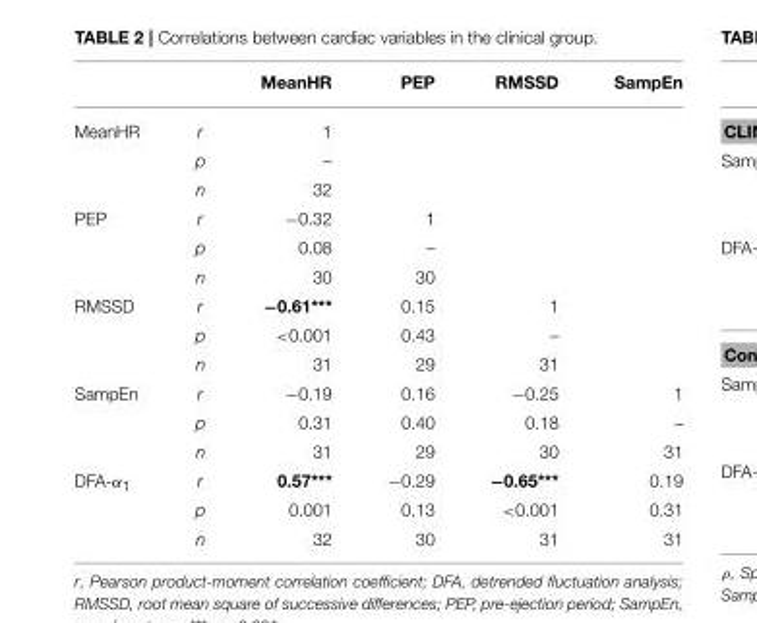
<table><thead><tr><td></td><td></td><td>MeanHR</td><td>PEP</td><td>RMSSD</td><td>SampEn</td></tr></thead><tbody><tr><td rowspan="3">MeanHR</td><td>r</td><td>1</td><td></td><td></td><td></td></tr><tr><td>p</td><td>–</td><td></td><td></td><td></td></tr><tr><td>n</td><td>32</td><td></td><td></td><td></td></tr><tr><td rowspan="3">PEP</td><td>r</td><td>−0.32</td><td>1</td><td></td><td></td></tr><tr><td>p</td><td>0.08</td><td>–</td><td></td><td></td></tr><tr><td>n</td><td>30</td><td>30</td><td></td><td></td></tr><tr><td rowspan="3">RMSSD</td><td>r</td><td>−0.61***</td><td>0.15</td><td>1</td><td></td></tr><tr><td>p</td><td>&lt;0.001</td><td>0.43</td><td>–</td><td></td></tr><tr><td>n</td><td>31</td><td>29</td><td>31</td><td></td></tr><tr><td rowspan="3">SampEn</td><td>r</td><td>−0.19</td><td>0.16</td><td>−0.25</td><td>1</td></tr><tr><td>p</td><td>0.31</td><td>0.40</td><td>0.18</td><td>–</td></tr><tr><td>n</td><td>31</td><td>29</td><td>30</td><td>31</td></tr><tr><td rowspan="3">DFA-α<sub>1</sub></td><td>r</td><td>0.57***</td><td>−0.29</td><td>−0.65***</td><td>0.19</td></tr><tr><td>p</td><td>0.001</td><td>0.13</td><td>&lt;0.001</td><td>0.31</td></tr><tr><td>n</td><td>32</td><td>30</td><td>31</td><td>31</td></tr></tbody></table>